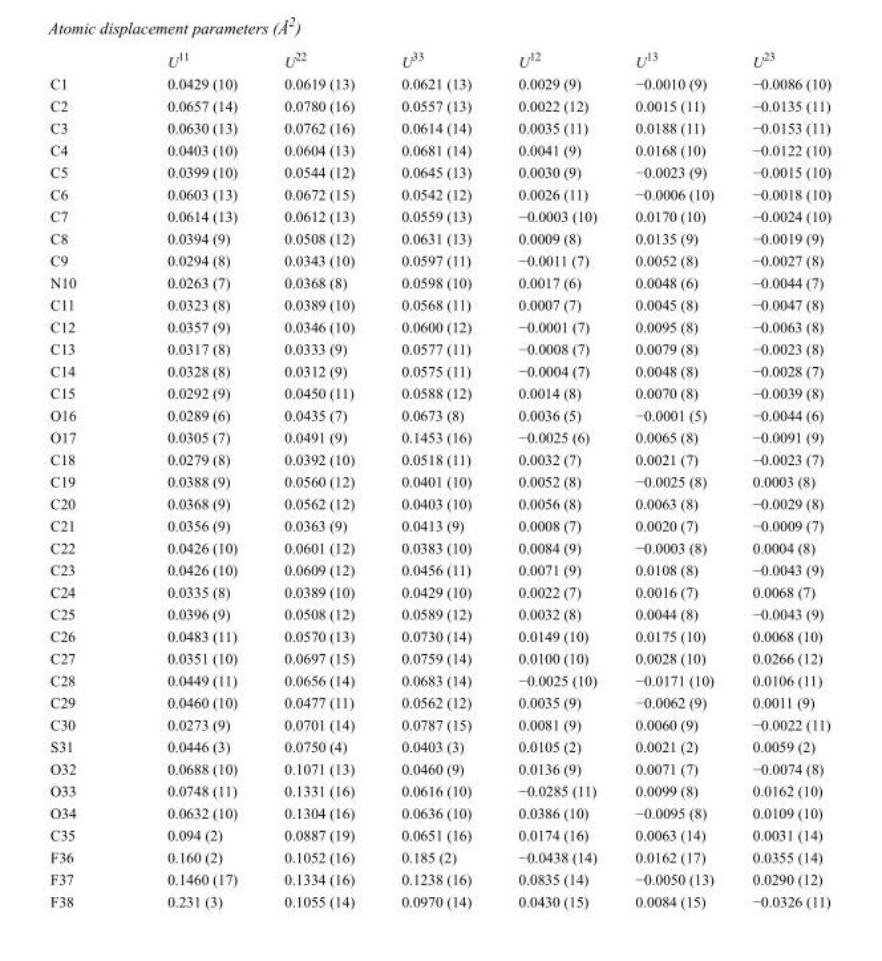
<table><thead><tr><td></td><td>U<sup>11</sup></td><td>U<sup>22</sup></td><td>U<sup>33</sup></td><td>U<sup>12</sup></td><td>U<sup>13</sup></td><td>U<sup>23</sup></td></tr></thead><tbody><tr><td>C1</td><td>0.0429 (10)</td><td>0.0619 (13)</td><td>0.0621 (13)</td><td>0.0029 (9)</td><td>−0.0010 (9)</td><td>−0.0086 (10)</td></tr><tr><td>C2</td><td>0.0657 (14)</td><td>0.0780 (16)</td><td>0.0557 (13)</td><td>0.0022 (12)</td><td>0.0015 (11)</td><td>−0.0135 (11)</td></tr><tr><td>C3</td><td>0.0630 (13)</td><td>0.0762 (16)</td><td>0.0614 (14)</td><td>0.0035 (11)</td><td>0.0188 (11)</td><td>−0.0153 (11)</td></tr><tr><td>C4</td><td>0.0403 (10)</td><td>0.0604 (13)</td><td>0.0681 (14)</td><td>0.0041 (9)</td><td>0.0168 (10)</td><td>−0.0122 (10)</td></tr><tr><td>C5</td><td>0.0399 (10)</td><td>0.0544 (12)</td><td>0.0645 (13)</td><td>0.0030 (9)</td><td>−0.0023 (9)</td><td>−0.0015 (10)</td></tr><tr><td>C6</td><td>0.0603 (13)</td><td>0.0672 (15)</td><td>0.0542 (12)</td><td>0.0026 (11)</td><td>−0.0006 (10)</td><td>−0.0018 (10)</td></tr><tr><td>C7</td><td>0.0614 (13)</td><td>0.0612 (13)</td><td>0.0559 (13)</td><td>−0.0003 (10)</td><td>0.0170 (10)</td><td>−0.0024 (10)</td></tr><tr><td>C8</td><td>0.0394 (9)</td><td>0.0508 (12)</td><td>0.0631 (13)</td><td>0.0009 (8)</td><td>0.0135 (9)</td><td>−0.0019 (9)</td></tr><tr><td>C9</td><td>0.0294 (8)</td><td>0.0343 (10)</td><td>0.0597 (11)</td><td>−0.0011 (7)</td><td>0.0052 (8)</td><td>−0.0027 (8)</td></tr><tr><td>N10</td><td>0.0263 (7)</td><td>0.0368 (8)</td><td>0.0598 (10)</td><td>0.0017 (6)</td><td>0.0048 (6)</td><td>−0.0044 (7)</td></tr><tr><td>C11</td><td>0.0323 (8)</td><td>0.0389 (10)</td><td>0.0568 (11)</td><td>0.0007 (7)</td><td>0.0045 (8)</td><td>−0.0047 (8)</td></tr><tr><td>C12</td><td>0.0357 (9)</td><td>0.0346 (10)</td><td>0.0600 (12)</td><td>−0.0001 (7)</td><td>0.0095 (8)</td><td>−0.0063 (8)</td></tr><tr><td>C13</td><td>0.0317 (8)</td><td>0.0333 (9)</td><td>0.0577 (11)</td><td>−0.0008 (7)</td><td>0.0079 (8)</td><td>−0.0023 (8)</td></tr><tr><td>C14</td><td>0.0328 (8)</td><td>0.0312 (9)</td><td>0.0575 (11)</td><td>−0.0004 (7)</td><td>0.0048 (8)</td><td>−0.0028 (7)</td></tr><tr><td>C15</td><td>0.0292 (9)</td><td>0.0450 (11)</td><td>0.0588 (12)</td><td>0.0014 (8)</td><td>0.0070 (8)</td><td>−0.0039 (8)</td></tr><tr><td>O16</td><td>0.0289 (6)</td><td>0.0435 (7)</td><td>0.0673 (8)</td><td>0.0036 (5)</td><td>−0.0001 (5)</td><td>−0.0044 (6)</td></tr><tr><td>O17</td><td>0.0305 (7)</td><td>0.0491 (9)</td><td>0.1453 (16)</td><td>−0.0025 (6)</td><td>0.0065 (8)</td><td>−0.0091 (9)</td></tr><tr><td>C18</td><td>0.0279 (8)</td><td>0.0392 (10)</td><td>0.0518 (11)</td><td>0.0032 (7)</td><td>0.0021 (7)</td><td>−0.0023 (7)</td></tr><tr><td>C19</td><td>0.0388 (9)</td><td>0.0560 (12)</td><td>0.0401 (10)</td><td>0.0052 (8)</td><td>−0.0025 (8)</td><td>0.0003 (8)</td></tr><tr><td>C20</td><td>0.0368 (9)</td><td>0.0562 (12)</td><td>0.0403 (10)</td><td>0.0056 (8)</td><td>0.0063 (8)</td><td>−0.0029 (8)</td></tr><tr><td>C21</td><td>0.0356 (9)</td><td>0.0363 (9)</td><td>0.0413 (9)</td><td>0.0008 (7)</td><td>0.0020 (7)</td><td>−0.0009 (7)</td></tr><tr><td>C22</td><td>0.0426 (10)</td><td>0.0601 (12)</td><td>0.0383 (10)</td><td>0.0084 (9)</td><td>−0.0003 (8)</td><td>0.0004 (8)</td></tr><tr><td>C23</td><td>0.0426 (10)</td><td>0.0609 (12)</td><td>0.0456 (11)</td><td>0.0071 (9)</td><td>0.0108 (8)</td><td>−0.0043 (9)</td></tr><tr><td>C24</td><td>0.0335 (8)</td><td>0.0389 (10)</td><td>0.0429 (10)</td><td>0.0022 (7)</td><td>0.0016 (7)</td><td>0.0068 (7)</td></tr><tr><td>C25</td><td>0.0396 (9)</td><td>0.0508 (12)</td><td>0.0589 (12)</td><td>0.0032 (8)</td><td>0.0044 (8)</td><td>−0.0043 (9)</td></tr><tr><td>C26</td><td>0.0483 (11)</td><td>0.0570 (13)</td><td>0.0730 (14)</td><td>0.0149 (10)</td><td>0.0175 (10)</td><td>0.0068 (10)</td></tr><tr><td>C27</td><td>0.0351 (10)</td><td>0.0697 (15)</td><td>0.0759 (14)</td><td>0.0100 (10)</td><td>0.0028 (10)</td><td>0.0266 (12)</td></tr><tr><td>C28</td><td>0.0449 (11)</td><td>0.0656 (14)</td><td>0.0683 (14)</td><td>−0.0025 (10)</td><td>−0.0171 (10)</td><td>0.0106 (11)</td></tr><tr><td>C29</td><td>0.0460 (10)</td><td>0.0477 (11)</td><td>0.0562 (12)</td><td>0.0035 (9)</td><td>−0.0062 (9)</td><td>0.0011 (9)</td></tr><tr><td>C30</td><td>0.0273 (9)</td><td>0.0701 (14)</td><td>0.0787 (15)</td><td>0.0081 (9)</td><td>0.0060 (9)</td><td>−0.0022 (11)</td></tr><tr><td>S31</td><td>0.0446 (3)</td><td>0.0750 (4)</td><td>0.0403 (3)</td><td>0.0105 (2)</td><td>0.0021 (2)</td><td>0.0059 (2)</td></tr><tr><td>O32</td><td>0.0688 (10)</td><td>0.1071 (13)</td><td>0.0460 (9)</td><td>0.0136 (9)</td><td>0.0071 (7)</td><td>−0.0074 (8)</td></tr><tr><td>O33</td><td>0.0748 (11)</td><td>0.1331 (16)</td><td>0.0616 (10)</td><td>−0.0285 (11)</td><td>0.0099 (8)</td><td>0.0162 (10)</td></tr><tr><td>O34</td><td>0.0632 (10)</td><td>0.1304 (16)</td><td>0.0636 (10)</td><td>0.0386 (10)</td><td>−0.0095 (8)</td><td>0.0109 (10)</td></tr><tr><td>C35</td><td>0.094 (2)</td><td>0.0887 (19)</td><td>0.0651 (16)</td><td>0.0174 (16)</td><td>0.0063 (14)</td><td>0.0031 (14)</td></tr><tr><td>F36</td><td>0.160 (2)</td><td>0.1052 (16)</td><td>0.185 (2)</td><td>−0.0438 (14)</td><td>0.0162 (17)</td><td>0.0355 (14)</td></tr><tr><td>F37</td><td>0.1460 (17)</td><td>0.1334 (16)</td><td>0.1238 (16)</td><td>0.0835 (14)</td><td>−0.0050 (13)</td><td>0.0290 (12)</td></tr><tr><td>F38</td><td>0.231 (3)</td><td>0.1055 (14)</td><td>0.0970 (14)</td><td>0.0430 (15)</td><td>0.0084 (15)</td><td>−0.0326 (11)</td></tr></tbody></table>